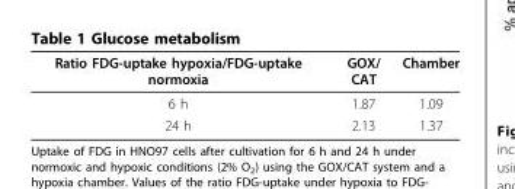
<table><thead><tr><td>Ratio FDG-uptake hypoxia/FDG-uptake normoxia</td><td>GOX/ CAT</td><td>Chamber</td></tr></thead><tbody><tr><td>6 h</td><td>1.87</td><td>1.09</td></tr><tr><td>24 h</td><td>2.13</td><td>1.37</td></tr></tbody></table>